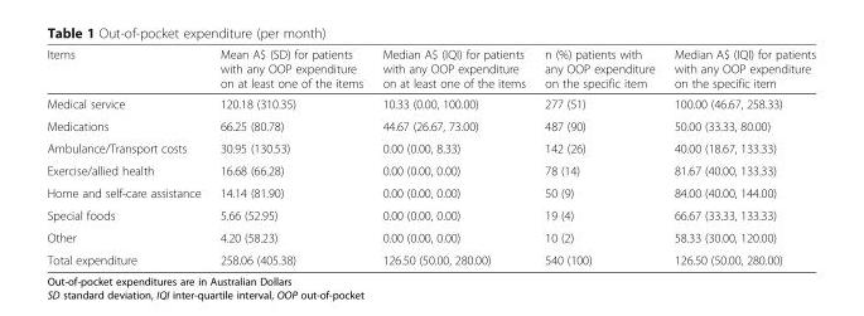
<table><thead><tr><td>Items</td><td>Mean A$ (SD) for patients with any OOP expenditure on at least one of the items</td><td>Median A$ (IQI) for patients with any OOP expenditure on at least one of the items</td><td>n (%) patients with any OOP expenditure on the specific item</td><td>Median A$ (IQI) for patients with any OOP expenditure on the specific item</td></tr></thead><tbody><tr><td>Medical service</td><td>120.18 (310.35)</td><td>10.33 (0.00, 100.00)</td><td>277 (51)</td><td>100.00 (46.67, 258.33)</td></tr><tr><td>Medications</td><td>66.25 (80.78)</td><td>44.67 (26.67, 73.00)</td><td>487 (90)</td><td>50.00 (33.33, 80.00)</td></tr><tr><td>Ambulance/Transport costs</td><td>30.95 (130.53)</td><td>0.00 (0.00, 8.33)</td><td>142 (26)</td><td>40.00 (18.67, 133.33)</td></tr><tr><td>Exercise/allied health</td><td>16.68 (66.28)</td><td>0.00 (0.00, 0.00)</td><td>78 (14)</td><td>81.67 (40.00, 133.33)</td></tr><tr><td>Home and self-care assistance</td><td>14.14 (81.90)</td><td>0.00 (0.00, 0.00)</td><td>50 (9)</td><td>84.00 (40.00, 144.00)</td></tr><tr><td>Special foods</td><td>5.66 (52.95)</td><td>0.00 (0.00, 0.00)</td><td>19 (4)</td><td>66.67 (33.33, 133.33)</td></tr><tr><td>Other</td><td>4.20 (58.23)</td><td>0.00 (0.00, 0.00)</td><td>10 (2)</td><td>58.33 (30.00, 120.00)</td></tr><tr><td>Total expenditure</td><td>258.06 (405.38)</td><td>126.50 (50.00, 280.00)</td><td>540 (100)</td><td>126.50 (50.00, 280.00)</td></tr></tbody></table>